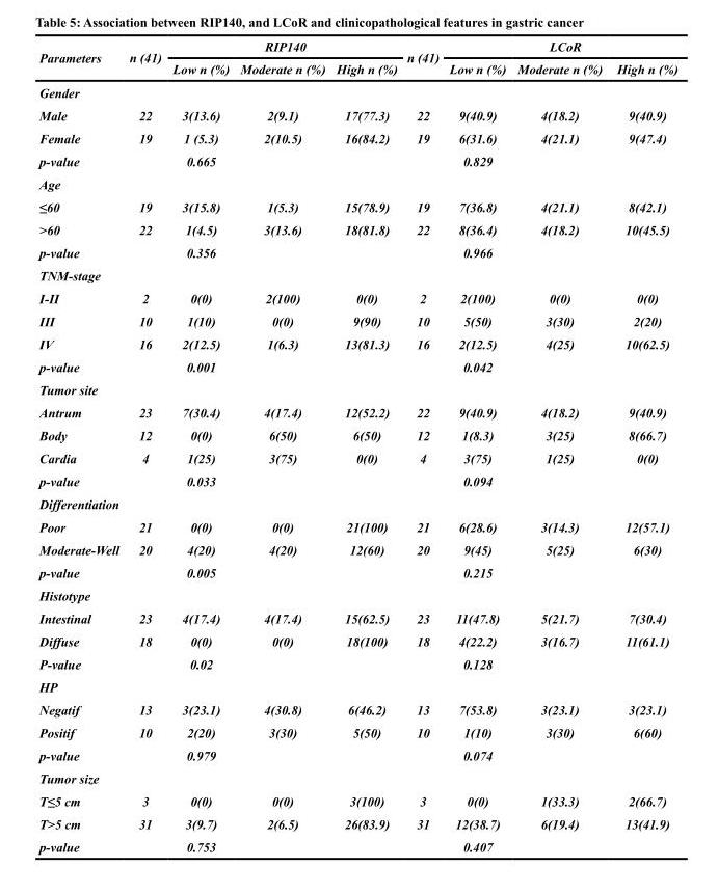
<table><thead><tr><td rowspan="2">Parameters</td><td rowspan="2">n (41)</td><td colspan="3">RIP140</td><td rowspan="2">n (41)</td><td colspan="3">LCoR</td></tr><tr><td>Low n (%)</td><td>Moderate n (%)</td><td>High n (%)</td><td>Low n (%)</td><td>Moderate n (%)</td><td>High n (%)</td></tr></thead><tbody><tr><td colspan="9">Gender</td></tr><tr><td>Male</td><td>22</td><td>3(13.6)</td><td>2(9.1)</td><td>17(77.3)</td><td>22</td><td>9(40.9)</td><td>4(18.2)</td><td>9(40.9)</td></tr><tr><td>Female</td><td>19</td><td>1 (5.3)</td><td>2(10.5)</td><td>16(84.2)</td><td>19</td><td>6(31.6)</td><td>4(21.1)</td><td>9(47.4)</td></tr><tr><td>p-value</td><td></td><td>0.665</td><td></td><td></td><td></td><td>0.829</td><td></td><td></td></tr><tr><td colspan="9">Age</td></tr><tr><td>≤60</td><td>19</td><td>3(15.8)</td><td>1(5.3)</td><td>15(78.9)</td><td>19</td><td>7(36.8)</td><td>4(21.1)</td><td>8(42.1)</td></tr><tr><td>&gt;60</td><td>22</td><td>1(4.5)</td><td>3(13.6)</td><td>18(81.8)</td><td>22</td><td>8(36.4)</td><td>4(18.2)</td><td>10(45.5)</td></tr><tr><td>p-value</td><td></td><td>0.356</td><td></td><td></td><td></td><td>0.966</td><td></td><td></td></tr><tr><td colspan="9">TNM-stage</td></tr><tr><td>I-II</td><td>2</td><td>0(0)</td><td>2(100)</td><td>0(0)</td><td>2</td><td>2(100)</td><td>0(0)</td><td>0(0)</td></tr><tr><td>III</td><td>10</td><td>1(10)</td><td>0(0)</td><td>9(90)</td><td>10</td><td>5(50)</td><td>3(30)</td><td>2(20)</td></tr><tr><td>IV</td><td>16</td><td>2(12.5)</td><td>1(6.3)</td><td>13(81.3)</td><td>16</td><td>2(12.5)</td><td>4(25)</td><td>10(62.5)</td></tr><tr><td>p-value</td><td></td><td>0.001</td><td></td><td></td><td></td><td>0.042</td><td></td><td></td></tr><tr><td colspan="9">Tumor site</td></tr><tr><td>Antrum</td><td>23</td><td>7(30.4)</td><td>4(17.4)</td><td>12(52.2)</td><td>22</td><td>9(40.9)</td><td>4(18.2)</td><td>9(40.9)</td></tr><tr><td>Body</td><td>12</td><td>0(0)</td><td>6(50)</td><td>6(50)</td><td>12</td><td>1(8.3)</td><td>3(25)</td><td>8(66.7)</td></tr><tr><td>Cardia</td><td>4</td><td>1(25)</td><td>3(75)</td><td>0(0)</td><td>4</td><td>3(75)</td><td>1(25)</td><td>0(0)</td></tr><tr><td>p-value</td><td></td><td>0.033</td><td></td><td></td><td></td><td>0.094</td><td></td><td></td></tr><tr><td colspan="9">Differentiation</td></tr><tr><td>Poor</td><td>21</td><td>0(0)</td><td>0(0)</td><td>21(100)</td><td>21</td><td>6(28.6)</td><td>3(14.3)</td><td>12(57.1)</td></tr><tr><td>Moderate-Well</td><td>20</td><td>4(20)</td><td>4(20)</td><td>12(60)</td><td>20</td><td>9(45)</td><td>5(25)</td><td>6(30)</td></tr><tr><td>p-value</td><td></td><td>0.005</td><td></td><td></td><td></td><td>0.215</td><td></td><td></td></tr><tr><td colspan="9">Histotype</td></tr><tr><td>Intestinal</td><td>23</td><td>4(17.4)</td><td>4(17.4)</td><td>15(62.5)</td><td>23</td><td>11(47.8)</td><td>5(21.7)</td><td>7(30.4)</td></tr><tr><td>Diffuse</td><td>18</td><td>0(0)</td><td>0(0)</td><td>18(100)</td><td>18</td><td>4(22.2)</td><td>3(16.7)</td><td>11(61.1)</td></tr><tr><td>P-value</td><td></td><td>0.02</td><td></td><td></td><td></td><td>0.128</td><td></td><td></td></tr><tr><td colspan="9">HP</td></tr><tr><td>Negatif</td><td>13</td><td>3(23.1)</td><td>4(30.8)</td><td>6(46.2)</td><td>13</td><td>7(53.8)</td><td>3(23.1)</td><td>3(23.1)</td></tr><tr><td>Positif</td><td>10</td><td>2(20)</td><td>3(30)</td><td>5(50)</td><td>10</td><td>1(10)</td><td>3(30)</td><td>6(60)</td></tr><tr><td>p-value</td><td></td><td>0.979</td><td></td><td></td><td></td><td>0.074</td><td></td><td></td></tr><tr><td colspan="9">Tumor size</td></tr><tr><td>T≤5 cm</td><td>3</td><td>0(0)</td><td>0(0)</td><td>3(100)</td><td>3</td><td>0(0)</td><td>1(33.3)</td><td>2(66.7)</td></tr><tr><td>T&gt;5 cm</td><td>31</td><td>3(9.7)</td><td>2(6.5)</td><td>26(83.9)</td><td>31</td><td>12(38.7)</td><td>6(19.4)</td><td>13(41.9)</td></tr><tr><td>p-value</td><td></td><td>0.753</td><td></td><td></td><td></td><td>0.407</td><td></td><td></td></tr></tbody></table>